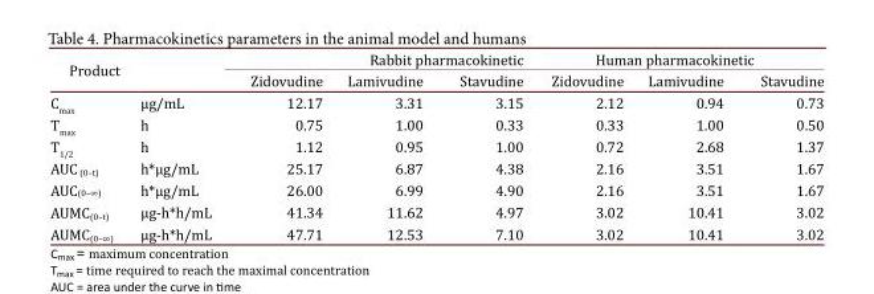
<table><thead><tr><td rowspan="2">Product</td><td rowspan="2"></td><td colspan="3">Rabbit pharmacokinetic</td><td colspan="3">Human pharmacokinetic</td></tr><tr><td>Zidovudine</td><td>Lamivudine</td><td>Stavudine</td><td>Zidovudine</td><td>Lamivudine</td><td>Stavudine</td></tr></thead><tbody><tr><td>C<sub>max</sub></td><td>µg/mL</td><td>12.17</td><td>3.31</td><td>3.15</td><td>2.12</td><td>0.94</td><td>0.73</td></tr><tr><td>T<sub>max</sub></td><td>h</td><td>0.75</td><td>1.00</td><td>0.33</td><td>0.33</td><td>1.00</td><td>0.50</td></tr><tr><td>T<sub>1/2</sub></td><td>h</td><td>1.12</td><td>0.95</td><td>1.00</td><td>0.72</td><td>2.68</td><td>1.37</td></tr><tr><td>AUC <sub>(0–t)</sub></td><td>h*µg/mL</td><td>25.17</td><td>6.87</td><td>4.38</td><td>2.16</td><td>3.51</td><td>1.67</td></tr><tr><td>AUC<sub>(0–∞)</sub></td><td>h*µg/mL</td><td>26.00</td><td>6.99</td><td>4.90</td><td>2.16</td><td>3.51</td><td>1.67</td></tr><tr><td>AUMC<sub>(0–t)</sub></td><td>µg-h*h/mL</td><td>41.34</td><td>11.62</td><td>4.97</td><td>3.02</td><td>10.41</td><td>3.02</td></tr><tr><td>AUMC<sub>(0–∞)</sub></td><td>µg-h*h/mL</td><td>47.71</td><td>12.53</td><td>7.10</td><td>3.02</td><td>10.41</td><td>3.02</td></tr></tbody></table>